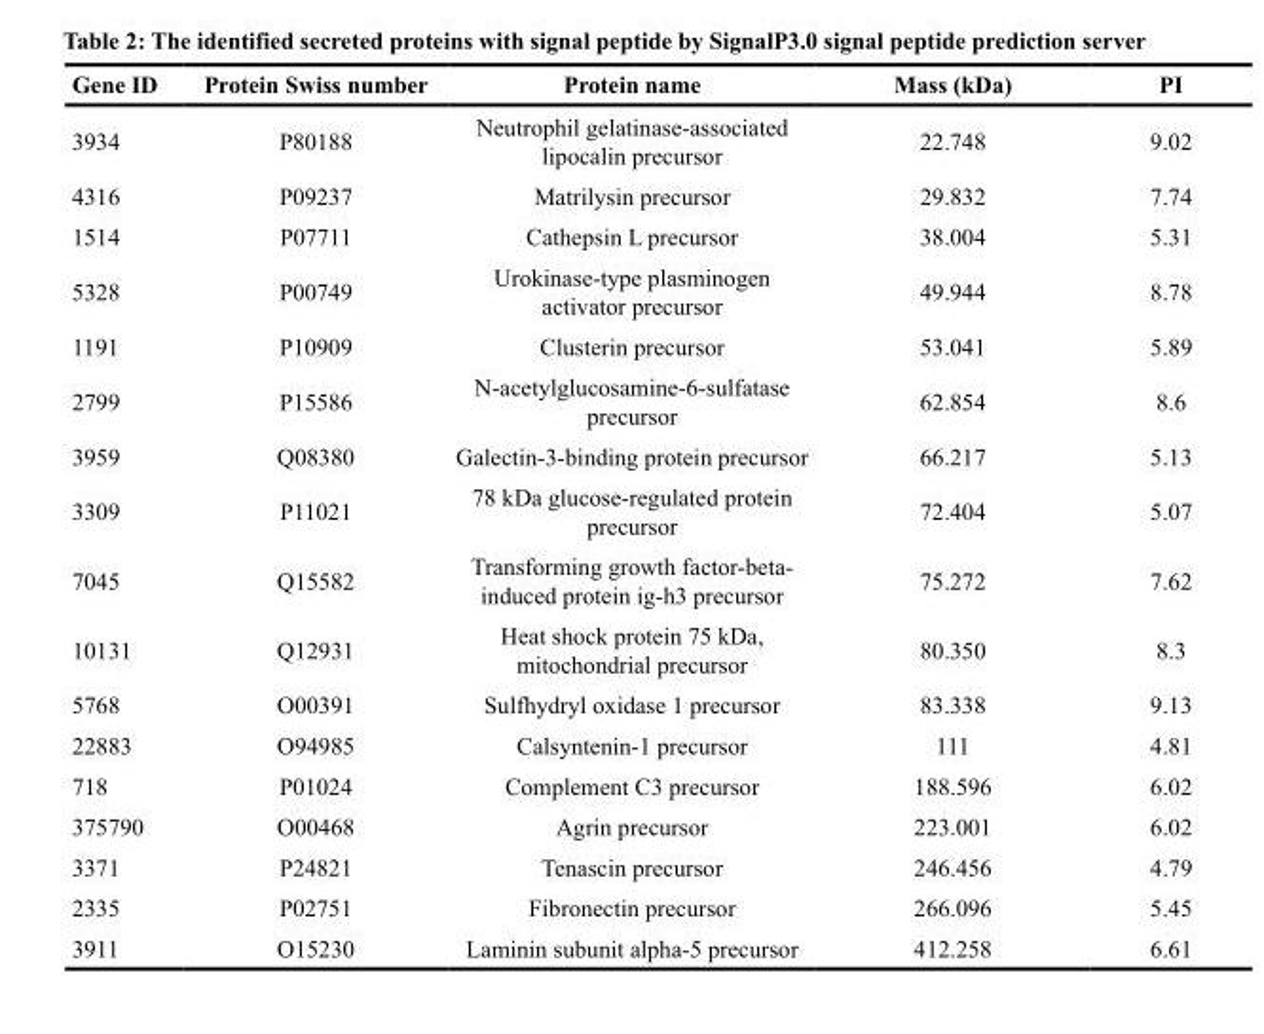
<table><thead><tr><td>Gene ID</td><td>Protein Swiss number</td><td>Protein name</td><td>Mass (kDa)</td><td>PI</td></tr></thead><tbody><tr><td>3934</td><td>P80188</td><td>Neutrophil gelatinase-associated lipocalin precursor</td><td>22.748</td><td>9.02</td></tr><tr><td>4316</td><td>P09237</td><td>Matrilysin precursor</td><td>29.832</td><td>7.74</td></tr><tr><td>1514</td><td>P07711</td><td>Cathepsin L precursor</td><td>38.004</td><td>5.31</td></tr><tr><td>5328</td><td>P00749</td><td>Urokinase-type plasminogen activator precursor</td><td>49.944</td><td>8.78</td></tr><tr><td>1191</td><td>P10909</td><td>Clusterin precursor</td><td>53.041</td><td>5.89</td></tr><tr><td>2799</td><td>P15586</td><td>N-acetylglucosamine-6-sulfatase precursor</td><td>62.854</td><td>8.6</td></tr><tr><td>3959</td><td>Q08380</td><td>Galectin-3-binding protein precursor</td><td>66.217</td><td>5.13</td></tr><tr><td>3309</td><td>P11021</td><td>78 kDa glucose-regulated protein precursor</td><td>72.404</td><td>5.07</td></tr><tr><td>7045</td><td>Q15582</td><td>Transforming growth factor-beta- induced protein ig-h3 precursor</td><td>75.272</td><td>7.62</td></tr><tr><td>10131</td><td>Q12931</td><td>Heat shock protein 75 kDa, mitochondrial precursor</td><td>80.350</td><td>8.3</td></tr><tr><td>5768</td><td>O00391</td><td>Sulfhydryl oxidase 1 precursor</td><td>83.338</td><td>9.13</td></tr><tr><td>22883</td><td>O94985</td><td>Calsyntenin-1 precursor</td><td>111</td><td>4.81</td></tr><tr><td>718</td><td>P01024</td><td>Complement C3 precursor</td><td>188.596</td><td>6.02</td></tr><tr><td>375790</td><td>O00468</td><td>Agrin precursor</td><td>223.001</td><td>6.02</td></tr><tr><td>3371</td><td>P24821</td><td>Tenascin precursor</td><td>246.456</td><td>4.79</td></tr><tr><td>2335</td><td>P02751</td><td>Fibronectin precursor</td><td>266.096</td><td>5.45</td></tr><tr><td>3911</td><td>O15230</td><td>Laminin subunit alpha-5 precursor</td><td>412.258</td><td>6.61</td></tr></tbody></table>